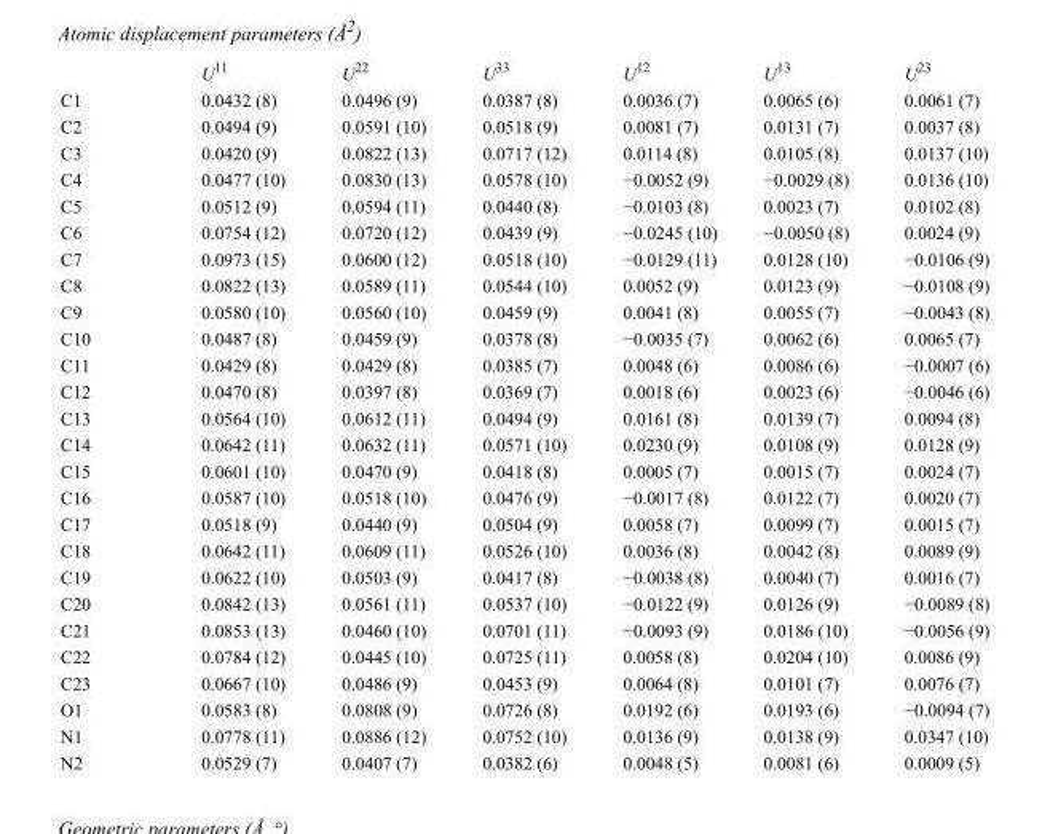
<table><thead><tr><td></td><td>U<sup>11</sup></td><td>U<sup>22</sup></td><td>U<sup>33</sup></td><td>U<sup>12</sup></td><td>U<sup>13</sup></td><td>U<sup>23</sup></td></tr></thead><tbody><tr><td>C1</td><td>0.0432 (8)</td><td>0.0496 (9)</td><td>0.0387 (8)</td><td>0.0036 (7)</td><td>0.0065 (6)</td><td>0.0061 (7)</td></tr><tr><td>C2</td><td>0.0494 (9)</td><td>0.0591 (10)</td><td>0.0518 (9)</td><td>0.0081 (7)</td><td>0.0131 (7)</td><td>0.0037 (8)</td></tr><tr><td>C3</td><td>0.0420 (9)</td><td>0.0822 (13)</td><td>0.0717 (12)</td><td>0.0114 (8)</td><td>0.0105 (8)</td><td>0.0137 (10)</td></tr><tr><td>C4</td><td>0.0477 (10)</td><td>0.0830 (13)</td><td>0.0578 (10)</td><td>−0.0052 (9)</td><td>−0.0029 (8)</td><td>0.0136 (10)</td></tr><tr><td>C5</td><td>0.0512 (9)</td><td>0.0594 (11)</td><td>0.0440 (8)</td><td>−0.0103 (8)</td><td>0.0023 (7)</td><td>0.0102 (8)</td></tr><tr><td>C6</td><td>0.0754 (12)</td><td>0.0720 (12)</td><td>0.0439 (9)</td><td>−0.0245 (10)</td><td>−0.0050 (8)</td><td>0.0024 (9)</td></tr><tr><td>C7</td><td>0.0973 (15)</td><td>0.0600 (12)</td><td>0.0518 (10)</td><td>−0.0129 (11)</td><td>0.0128 (10)</td><td>−0.0106 (9)</td></tr><tr><td>C8</td><td>0.0822 (13)</td><td>0.0589 (11)</td><td>0.0544 (10)</td><td>0.0052 (9)</td><td>0.0123 (9)</td><td>−0.0108 (9)</td></tr><tr><td>C9</td><td>0.0580 (10)</td><td>0.0560 (10)</td><td>0.0459 (9)</td><td>0.0041 (8)</td><td>0.0055 (7)</td><td>−0.0043 (8)</td></tr><tr><td>C10</td><td>0.0487 (8)</td><td>0.0459 (9)</td><td>0.0378 (8)</td><td>−0.0035 (7)</td><td>0.0062 (6)</td><td>0.0065 (7)</td></tr><tr><td>C11</td><td>0.0429 (8)</td><td>0.0429 (8)</td><td>0.0385 (7)</td><td>0.0048 (6)</td><td>0.0086 (6)</td><td>−0.0007 (6)</td></tr><tr><td>C12</td><td>0.0470 (8)</td><td>0.0397 (8)</td><td>0.0369 (7)</td><td>0.0018 (6)</td><td>0.0023 (6)</td><td>−0.0046 (6)</td></tr><tr><td>C13</td><td>0.0564 (10)</td><td>0.0612 (11)</td><td>0.0494 (9)</td><td>0.0161 (8)</td><td>0.0139 (7)</td><td>0.0094 (8)</td></tr><tr><td>C14</td><td>0.0642 (11)</td><td>0.0632 (11)</td><td>0.0571 (10)</td><td>0.0230 (9)</td><td>0.0108 (9)</td><td>0.0128 (9)</td></tr><tr><td>C15</td><td>0.0601 (10)</td><td>0.0470 (9)</td><td>0.0418 (8)</td><td>0.0005 (7)</td><td>0.0015 (7)</td><td>0.0024 (7)</td></tr><tr><td>C16</td><td>0.0587 (10)</td><td>0.0518 (10)</td><td>0.0476 (9)</td><td>−0.0017 (8)</td><td>0.0122 (7)</td><td>0.0020 (7)</td></tr><tr><td>C17</td><td>0.0518 (9)</td><td>0.0440 (9)</td><td>0.0504 (9)</td><td>0.0058 (7)</td><td>0.0099 (7)</td><td>0.0015 (7)</td></tr><tr><td>C18</td><td>0.0642 (11)</td><td>0.0609 (11)</td><td>0.0526 (10)</td><td>0.0036 (8)</td><td>0.0042 (8)</td><td>0.0089 (9)</td></tr><tr><td>C19</td><td>0.0622 (10)</td><td>0.0503 (9)</td><td>0.0417 (8)</td><td>−0.0038 (8)</td><td>0.0040 (7)</td><td>0.0016 (7)</td></tr><tr><td>C20</td><td>0.0842 (13)</td><td>0.0561 (11)</td><td>0.0537 (10)</td><td>−0.0122 (9)</td><td>0.0126 (9)</td><td>−0.0089 (8)</td></tr><tr><td>C21</td><td>0.0853 (13)</td><td>0.0460 (10)</td><td>0.0701 (11)</td><td>−0.0093 (9)</td><td>0.0186 (10)</td><td>−0.0056 (9)</td></tr><tr><td>C22</td><td>0.0784 (12)</td><td>0.0445 (10)</td><td>0.0725 (11)</td><td>0.0058 (8)</td><td>0.0204 (10)</td><td>0.0086 (9)</td></tr><tr><td>C23</td><td>0.0667 (10)</td><td>0.0486 (9)</td><td>0.0453 (9)</td><td>0.0064 (8)</td><td>0.0101 (7)</td><td>0.0076 (7)</td></tr><tr><td>O1</td><td>0.0583 (8)</td><td>0.0808 (9)</td><td>0.0726 (8)</td><td>0.0192 (6)</td><td>0.0193 (6)</td><td>−0.0094 (7)</td></tr><tr><td>N1</td><td>0.0778 (11)</td><td>0.0886 (12)</td><td>0.0752 (10)</td><td>0.0136 (9)</td><td>0.0138 (9)</td><td>0.0347 (10)</td></tr><tr><td>N2</td><td>0.0529 (7)</td><td>0.0407 (7)</td><td>0.0382 (6)</td><td>0.0048 (5)</td><td>0.0081 (6)</td><td>0.0009 (5)</td></tr></tbody></table>